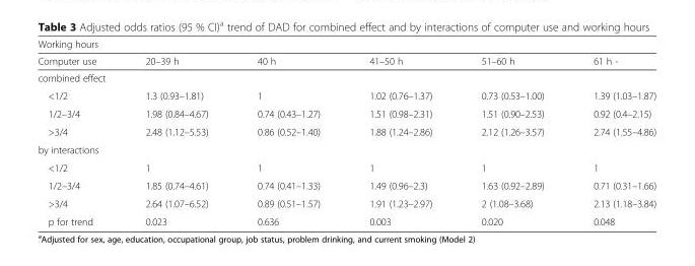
<table><thead><tr><td colspan="6">Working hours</td></tr><tr><td>Computer use</td><td>20–39 h</td><td>40 h</td><td>41–50 h</td><td>51–60 h</td><td>61 h -</td></tr></thead><tbody><tr><td colspan="6">combined effect</td></tr><tr><td>&lt;1/2</td><td>1.3 (0.93–1.81)</td><td>1</td><td>1.02 (0.76–1.37)</td><td>0.73 (0.53–1.00)</td><td>1.39 (1.03–1.87)</td></tr><tr><td>1/2–3/4</td><td>1.98 (0.84–4.67)</td><td>0.74 (0.43–1.27)</td><td>1.51 (0.98–2.31)</td><td>1.51 (0.90–2.53)</td><td>0.92 (0.4–2.15)</td></tr><tr><td>&gt;3/4</td><td>2.48 (1.12–5.53)</td><td>0.86 (0.52–1.40)</td><td>1.88 (1.24–2.86)</td><td>2.12 (1.26–3.57)</td><td>2.74 (1.55–4.86)</td></tr><tr><td colspan="6">by interactions</td></tr><tr><td>&lt;1/2</td><td>1</td><td>1</td><td>1</td><td>1</td><td>1</td></tr><tr><td>1/2–3/4</td><td>1.85 (0.74–4.61)</td><td>0.74 (0.41–1.33)</td><td>1.49 (0.96–2.3)</td><td>1.63 (0.92–2.89)</td><td>0.71 (0.31–1.66)</td></tr><tr><td>&gt;3/4</td><td>2.64 (1.07–6.52)</td><td>0.89 (0.51–1.57)</td><td>1.91 (1.23–2.97)</td><td>2 (1.08–3.68)</td><td>2.13 (1.18–3.84)</td></tr><tr><td>p for trend</td><td>0.023</td><td>0.636</td><td>0.003</td><td>0.020</td><td>0.048</td></tr></tbody></table>